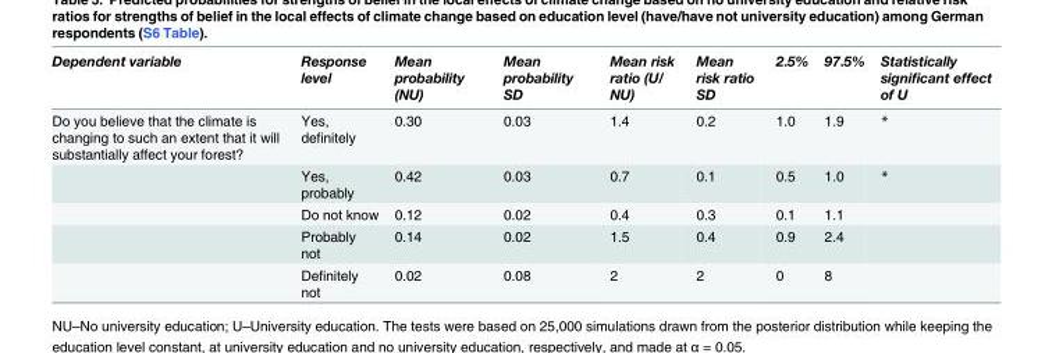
<table><thead><tr><td>Dependent variable</td><td>Response level</td><td>Mean probability (NU)</td><td>Mean probability SD</td><td>Mean risk ratio (U/ NU)</td><td>Mean risk ratio SD</td><td>2.5%</td><td>97.5%</td><td>Statistically significant effect of U</td></tr></thead><tbody><tr><td rowspan="5">Do you believe that the climate is changing to such an extent that it will substantially affect your forest?</td><td>Yes, definitely</td><td>0.30</td><td>0.03</td><td>1.4</td><td>0.2</td><td>1.0</td><td>1.9</td><td>*</td></tr><tr><td>Yes, probably</td><td>0.42</td><td>0.03</td><td>0.7</td><td>0.1</td><td>0.5</td><td>1.0</td><td>*</td></tr><tr><td>Do not know</td><td>0.12</td><td>0.02</td><td>0.4</td><td>0.3</td><td>0.1</td><td>1.1</td><td></td></tr><tr><td>Probably not</td><td>0.14</td><td>0.02</td><td>1.5</td><td>0.4</td><td>0.9</td><td>2.4</td><td></td></tr><tr><td>Definitely not</td><td>0.02</td><td>0.08</td><td>2</td><td>2</td><td>0</td><td>8</td><td></td></tr></tbody></table>